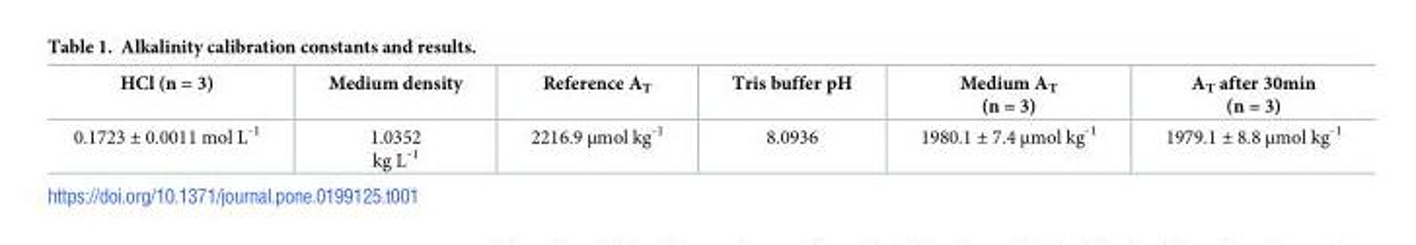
<table><thead><tr><td>HCl (n = 3)</td><td>Medium density</td><td>Reference A<sub>T</sub></td><td>Tris buffer pH</td><td>Medium A<sub>T</sub> (n = 3)</td><td>A<sub>T</sub> after 30min (n = 3)</td></tr></thead><tbody><tr><td>0.1723 ± 0.0011 mol L<sup>-1</sup></td><td>1.0352 kg L<sup>-1</sup></td><td>2216.9 μmol kg<sup>-1</sup></td><td>8.0936</td><td>1980.1 ± 7.4 μmol kg<sup>-1</sup></td><td>1979.1 ± 8.8 μmol kg<sup>-1</sup></td></tr></tbody></table>